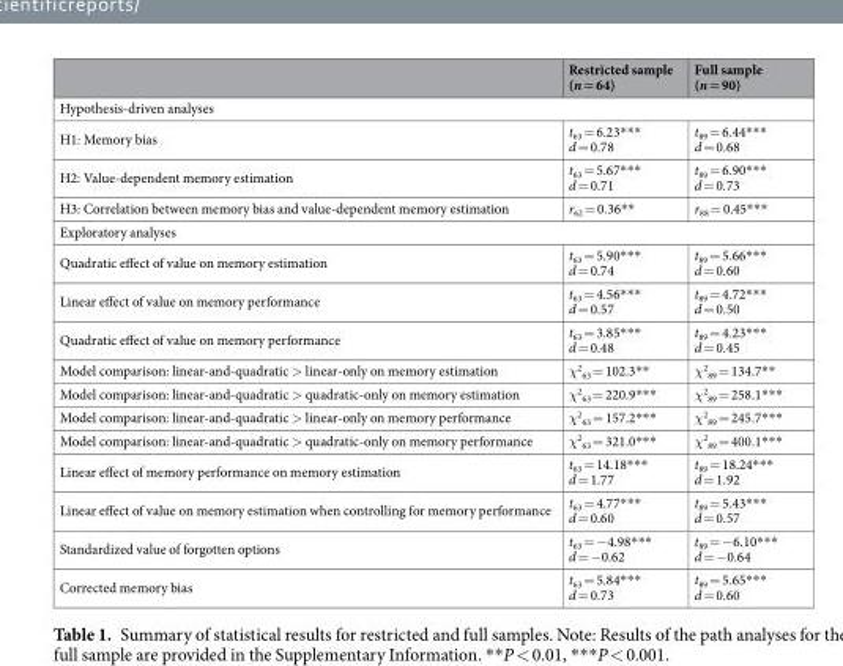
<table><thead><tr><td></td><td>Restricted sample (n = 64)</td><td>Full sample (n = 90)</td></tr></thead><tbody><tr><td colspan="3">Hypothesis-driven analyses</td></tr><tr><td>H1: Memory bias</td><td>t<sub>63</sub> = 6.23*** d = 0.78</td><td>t<sub>89</sub> = 6.44*** d = 0.68</td></tr><tr><td>H2: Value-dependent memory estimation</td><td>t<sub>63</sub> = 5.67*** d = 0.71</td><td>t<sub>89</sub> = 6.90*** d = 0.73</td></tr><tr><td>H3: Correlation between memory bias and value-dependent memory estimation</td><td>r<sub>62</sub> = 0.36**</td><td>r<sub>88</sub> = 0.45***</td></tr><tr><td colspan="3">Exploratory analyses</td></tr><tr><td>Quadratic effect of value on memory estimation</td><td>t<sub>63</sub> = 5.90*** d = 0.74</td><td>t<sub>89</sub> = 5.66*** d = 0.60</td></tr><tr><td>Linear effect of value on memory performance</td><td>t<sub>63</sub> = 4.56*** d = 0.57</td><td>t<sub>89</sub> = 4.72*** d = 0.50</td></tr><tr><td>Quadratic effect of value on memory performance</td><td>t<sub>63</sub> = 3.85*** d = 0.48</td><td>t<sub>89</sub> = 4.23*** d = 0.45</td></tr><tr><td>Model comparison: linear-and-quadratic &gt; linear-only on memory estimation</td><td>χ<sup>2</sup> <sub>63</sub> = 102.3**</td><td>χ<sup>2</sup> <sub>89</sub> = 134.7**</td></tr><tr><td>Model comparison: linear-and-quadratic &gt; quadratic-only on memory estimation</td><td>χ<sup>2</sup> <sub>63</sub> = 220.9***</td><td>χ<sup>2</sup> <sub>89</sub> = 258.1***</td></tr><tr><td>Model comparison: linear-and-quadratic &gt; linear-only on memory performance</td><td>χ<sup>2</sup> <sub>63</sub> = 157.2***</td><td>χ<sup>2</sup> <sub>89</sub> = 245.7***</td></tr><tr><td>Model comparison: linear-and-quadratic &gt; quadratic-only on memory performance</td><td>χ<sup>2</sup> <sub>63</sub> = 321.0***</td><td>χ<sup>2</sup> <sub>89</sub> = 400.1***</td></tr><tr><td>Linear effect of memory performance on memory estimation</td><td>t<sub>63</sub> = 14.18*** d = 1.77</td><td>t<sub>89</sub> = 18.24*** d = 1.92</td></tr><tr><td>Linear effect of value on memory estimation when controlling for memory performance</td><td>t<sub>63</sub> = 4.77*** d = 0.60</td><td>t<sub>89</sub> = 5.43*** d = 0.57</td></tr><tr><td>Standardized value of forgotten options</td><td>t<sub>63</sub> = −4.98*** d = −0.62</td><td>t<sub>89</sub> = −6.10*** d = −0.64</td></tr><tr><td>Corrected memory bias</td><td>t<sub>63</sub> = 5.84*** d = 0.73</td><td>t<sub>89</sub> = 5.65*** d = 0.60</td></tr></tbody></table>